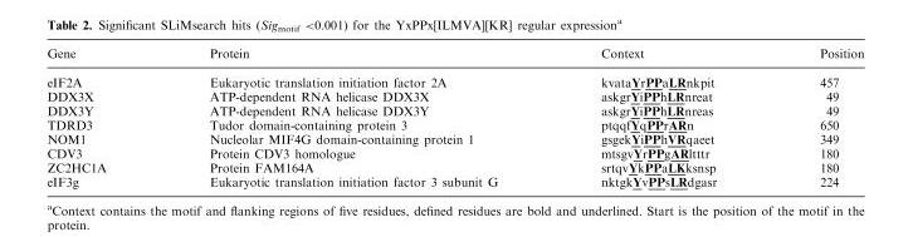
<table><thead><tr><td>Gene</td><td>Protein</td><td>Context</td><td>Position</td></tr></thead><tbody><tr><td>eIF2A</td><td>Eukaryotic translation initiation factor 2A</td><td>kvataYrPPaLRnkpit</td><td>457</td></tr><tr><td>DDX3X</td><td>ATP-dependent RNA helicase DDX3X</td><td>askgrYiPPhLRnreat</td><td>49</td></tr><tr><td>DDX3Y</td><td>ATP-dependent RNA helicase DDX3Y</td><td>askgrYiPPhLRnreas</td><td>49</td></tr><tr><td>TDRD3</td><td>Tudor domain-containing protein 3</td><td>ptqqfYqPPrARn</td><td>650</td></tr><tr><td>NOM1</td><td>Nucleolar MIF4G domain-containing protein 1</td><td>gsgekYiPPhVRqaeet</td><td>349</td></tr><tr><td>CDV3</td><td>Protein CDV3 homologue</td><td>mtsgvYrPPgARltttr</td><td>180</td></tr><tr><td>ZC2HC1A</td><td>Protein FAM164A</td><td>srtqvYkPPaLKksnsp</td><td>180</td></tr><tr><td>eIF3g</td><td>Eukaryotic translation initiation factor 3 subunit G</td><td>nktgkYvPPsLRdgasr</td><td>224</td></tr></tbody></table>